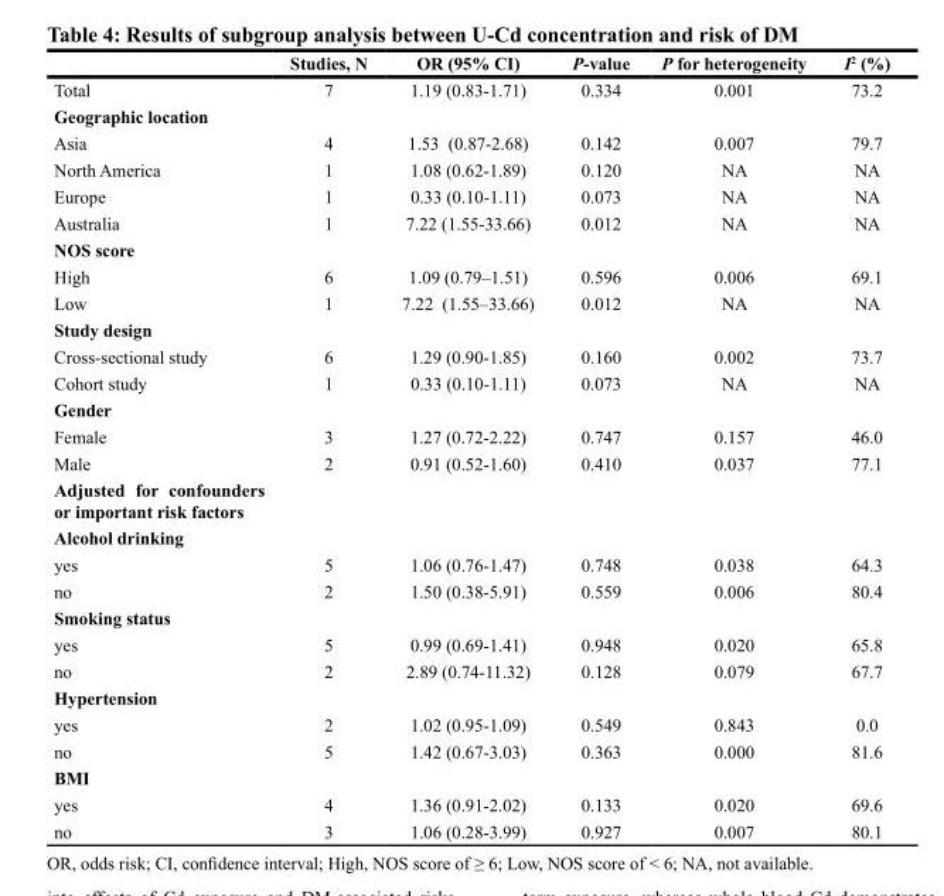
<table><thead><tr><td></td><td>Studies, N</td><td>OR (95% CI)</td><td>P-value</td><td>P for heterogeneity</td><td>I<sup>2</sup> (%)</td></tr></thead><tbody><tr><td>Total</td><td>7</td><td>1.19 (0.83-1.71)</td><td>0.334</td><td>0.001</td><td>73.2</td></tr><tr><td colspan="6">Geographic location</td></tr><tr><td>Asia</td><td>4</td><td>1.53 (0.87-2.68)</td><td>0.142</td><td>0.007</td><td>79.7</td></tr><tr><td>North America</td><td>1</td><td>1.08 (0.62-1.89)</td><td>0.120</td><td>NA</td><td>NA</td></tr><tr><td>Europe</td><td>1</td><td>0.33 (0.10-1.11)</td><td>0.073</td><td>NA</td><td>NA</td></tr><tr><td>Australia</td><td>1</td><td>7.22 (1.55-33.66)</td><td>0.012</td><td>NA</td><td>NA</td></tr><tr><td colspan="6">NOS score</td></tr><tr><td>High</td><td>6</td><td>1.09 (0.79–1.51)</td><td>0.596</td><td>0.006</td><td>69.1</td></tr><tr><td>Low</td><td>1</td><td>7.22 (1.55–33.66)</td><td>0.012</td><td>NA</td><td>NA</td></tr><tr><td colspan="6">Study design</td></tr><tr><td>Cross-sectional study</td><td>6</td><td>1.29 (0.90-1.85)</td><td>0.160</td><td>0.002</td><td>73.7</td></tr><tr><td>Cohort study</td><td>1</td><td>0.33 (0.10-1.11)</td><td>0.073</td><td>NA</td><td>NA</td></tr><tr><td colspan="6">Gender</td></tr><tr><td>Female</td><td>3</td><td>1.27 (0.72-2.22)</td><td>0.747</td><td>0.157</td><td>46.0</td></tr><tr><td>Male</td><td>2</td><td>0.91 (0.52-1.60)</td><td>0.410</td><td>0.037</td><td>77.1</td></tr><tr><td colspan="6">Adjusted for confounders or important risk factors</td></tr><tr><td colspan="6">Alcohol drinking</td></tr><tr><td>yes</td><td>5</td><td>1.06 (0.76-1.47)</td><td>0.748</td><td>0.038</td><td>64.3</td></tr><tr><td>no</td><td>2</td><td>1.50 (0.38-5.91)</td><td>0.559</td><td>0.006</td><td>80.4</td></tr><tr><td colspan="6">Smoking status</td></tr><tr><td>yes</td><td>5</td><td>0.99 (0.69-1.41)</td><td>0.948</td><td>0.020</td><td>65.8</td></tr><tr><td>no</td><td>2</td><td>2.89 (0.74-11.32)</td><td>0.128</td><td>0.079</td><td>67.7</td></tr><tr><td colspan="6">Hypertension</td></tr><tr><td>yes</td><td>2</td><td>1.02 (0.95-1.09)</td><td>0.549</td><td>0.843</td><td>0.0</td></tr><tr><td>no</td><td>5</td><td>1.42 (0.67-3.03)</td><td>0.363</td><td>0.000</td><td>81.6</td></tr><tr><td colspan="6">BMI</td></tr><tr><td>yes</td><td>4</td><td>1.36 (0.91-2.02)</td><td>0.133</td><td>0.020</td><td>69.6</td></tr><tr><td>no</td><td>3</td><td>1.06 (0.28-3.99)</td><td>0.927</td><td>0.007</td><td>80.1</td></tr></tbody></table>